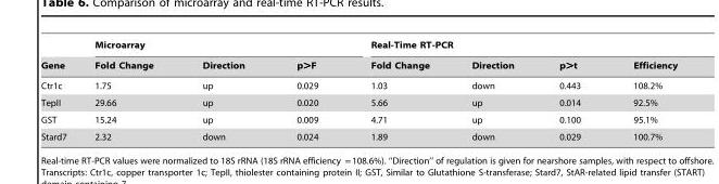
<table><thead><tr><td rowspan="2">Gene</td><td colspan="3">Microarray</td><td colspan="4">Real-Time RT-PCR</td></tr><tr><td>Fold Change</td><td>Direction</td><td>p&gt;F</td><td>Fold Change</td><td>Direction</td><td>p&gt;t</td><td>Efficiency</td></tr></thead><tbody><tr><td>Ctr1c</td><td>1.75</td><td>up</td><td>0.029</td><td>1.03</td><td>down</td><td>0.443</td><td>108.2%</td></tr><tr><td>TepII</td><td>29.66</td><td>up</td><td>0.020</td><td>5.66</td><td>up</td><td>0.014</td><td>92.5%</td></tr><tr><td>GST</td><td>15.24</td><td>up</td><td>0.009</td><td>4.71</td><td>up</td><td>0.100</td><td>95.1%</td></tr><tr><td>Stard7</td><td>2.32</td><td>down</td><td>0.024</td><td>1.89</td><td>down</td><td>0.029</td><td>100.7%</td></tr></tbody></table>